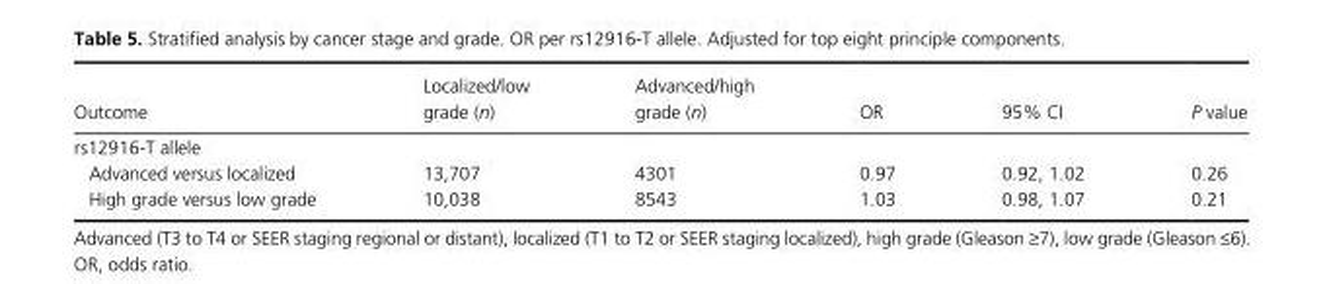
<table><thead><tr><td>Outcome</td><td>Localized/low grade (n)</td><td>Advanced/high grade (n)</td><td>OR</td><td>95% CI</td><td>P value</td></tr></thead><tbody><tr><td colspan="6">rs12916- T allele</td></tr><tr><td>Advanced versus localized</td><td>13,707</td><td>4301</td><td>0.97</td><td>0.92, 1.02</td><td>0.26</td></tr><tr><td>High grade versus low grade</td><td>10,038</td><td>8543</td><td>1.03</td><td>0.98, 1.07</td><td>0.21</td></tr></tbody></table>